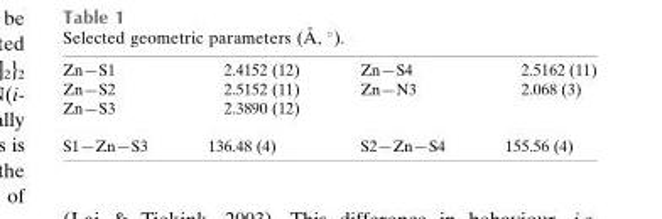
<table><tbody><tr><td>Zn—S1</td><td>2.4152 (12)</td><td>Zn—S4</td><td>2.5162 (11)</td></tr><tr><td>Zn—S2</td><td>2.5152 (11)</td><td>Zn—N3</td><td>2.068 (3)</td></tr><tr><td>Zn—S3</td><td>2.3890 (12)</td><td></td><td></td></tr><tr><td>S1—Zn—S3</td><td>136.48 (4)</td><td>S2—Zn—S4</td><td>155.56 (4)</td></tr></tbody></table>